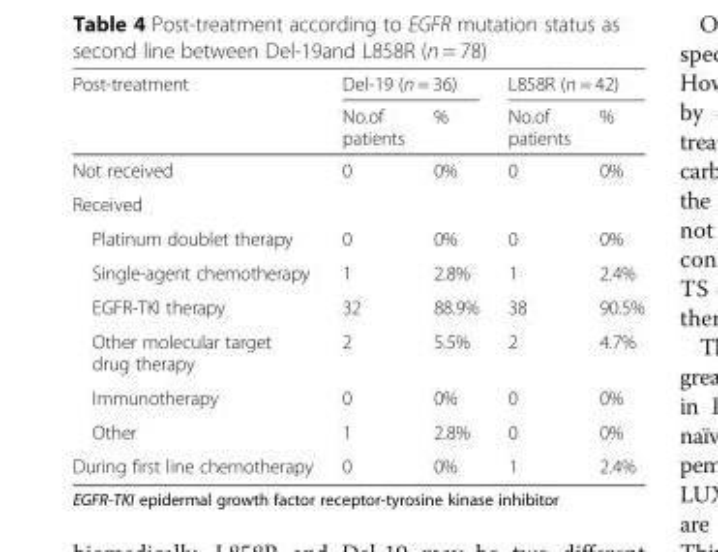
<table><thead><tr><td rowspan="2">Post-treatment</td><td colspan="2">Del-19 (n = 36)</td><td colspan="2">L858R (n = 42)</td></tr><tr><td>No.of patients</td><td>%</td><td>No.of patients</td><td>%</td></tr></thead><tbody><tr><td>Not received</td><td>0</td><td>0%</td><td>0</td><td>0%</td></tr><tr><td colspan="5">Received</td></tr><tr><td>Platinum doublet therapy</td><td>0</td><td>0%</td><td>0</td><td>0%</td></tr><tr><td>Single-agent chemotherapy</td><td>1</td><td>2.8%</td><td>1</td><td>2.4%</td></tr><tr><td>EGFR-TKI therapy</td><td>32</td><td>88.9%</td><td>38</td><td>90.5%</td></tr><tr><td>Other molecular target drug therapy</td><td>2</td><td>5.5%</td><td>2</td><td>4.7%</td></tr><tr><td>Immunotherapy</td><td>0</td><td>0%</td><td>0</td><td>0%</td></tr><tr><td>Other</td><td>1</td><td>2.8%</td><td>0</td><td>0%</td></tr><tr><td>During first line chemotherapy</td><td>0</td><td>0%</td><td>1</td><td>2.4%</td></tr></tbody></table>